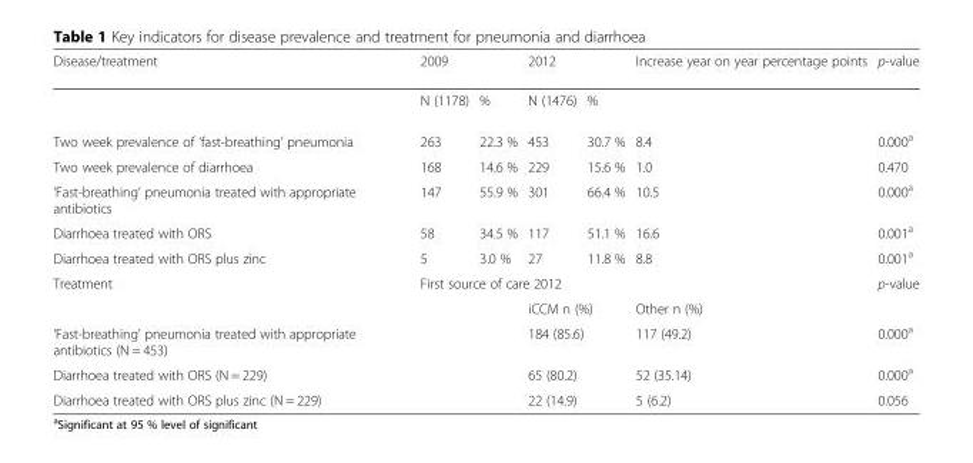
<table><thead><tr><td>Disease/treatment</td><td>2009</td><td></td><td>2012</td><td></td><td>Increase year on year percentage points</td><td>p-value</td></tr></thead><tbody><tr><td></td><td>N (1178)</td><td>%</td><td>N (1476)</td><td>%</td><td></td><td></td></tr><tr><td>Two week prevalence of ‘fast-breathing’ pneumonia</td><td>263</td><td>22.3 %</td><td>453</td><td>30.7 %</td><td>8.4</td><td>0.000<sup>a</sup></td></tr><tr><td>Two week prevalence of diarrhoea</td><td>168</td><td>14.6 %</td><td>229</td><td>15.6 %</td><td>1.0</td><td>0.470</td></tr><tr><td>‘Fast-breathing’ pneumonia treated with appropriate antibiotics</td><td>147</td><td>55.9 %</td><td>301</td><td>66.4 %</td><td>10.5</td><td>0.000<sup>a</sup></td></tr><tr><td>Diarrhoea treated with ORS</td><td>58</td><td>34.5 %</td><td>117</td><td>51.1 %</td><td>16.6</td><td>0.001<sup>a</sup></td></tr><tr><td>Diarrhoea treated with ORS plus zinc</td><td>5</td><td>3.0 %</td><td>27</td><td>11.8 %</td><td>8.8</td><td>0.001<sup>a</sup></td></tr><tr><td rowspan="2">Treatment</td><td colspan="5">First source of care 2012</td><td>p-value</td></tr><tr><td colspan="2"></td><td colspan="2">iCCM n (%)</td><td>Other n (%)</td><td></td></tr><tr><td>‘Fast-breathing’ pneumonia treated with appropriate antibiotics (N = 453)</td><td colspan="2"></td><td colspan="2">184 (85.6)</td><td>117 (49.2)</td><td>0.000<sup>a</sup></td></tr><tr><td>Diarrhoea treated with ORS (N = 229)</td><td colspan="2"></td><td colspan="2">65 (80.2)</td><td>52 (35.14)</td><td>0.000<sup>a</sup></td></tr><tr><td>Diarrhoea treated with ORS plus zinc (N = 229)</td><td colspan="2"></td><td colspan="2">22 (14.9)</td><td>5 (6.2)</td><td>0.056</td></tr></tbody></table>